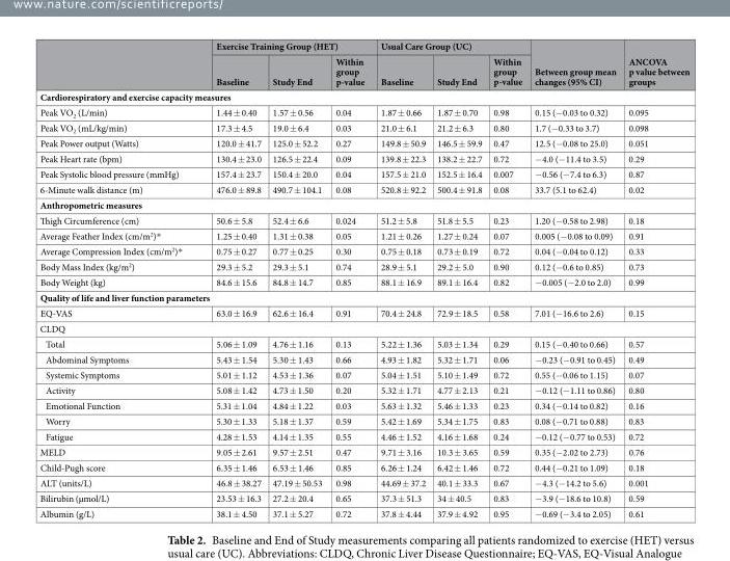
<table><thead><tr><td rowspan="2"></td><td colspan="3">Exercise Training Group (HET)</td><td colspan="3">Usual Care Group (UC)</td><td rowspan="2">Between group mean changes (95% CI)</td><td rowspan="2">ANCOVA p value between groups</td></tr><tr><td>Baseline</td><td>Study End</td><td>Within group p-value</td><td>Baseline</td><td>Study End</td><td>Within group p-value</td></tr></thead><tbody><tr><td colspan="9">Cardiorespiratory and exercise capacity measures</td></tr><tr><td>Peak VO<sub>2</sub> (L/min)</td><td>1.44 ± 0.40</td><td>1.57 ± 0.56</td><td>0.04</td><td>1.87 ± 0.66</td><td>1.87 ± 0.70</td><td>0.98</td><td>0.15 (−0.03 to 0.32)</td><td>0.095</td></tr><tr><td>Peak VO<sub>2</sub> (mL/kg/min)</td><td>17.3 ± 4.5</td><td>19.0 ± 6.4</td><td>0.03</td><td>21.0 ± 6.1</td><td>21.2 ± 6.3</td><td>0.80</td><td>1.7 (−0.33 to 3.7)</td><td>0.098</td></tr><tr><td>Peak Power output (Watts)</td><td>120.0 ± 41.7</td><td>125.0 ± 52.2</td><td>0.27</td><td>149.8 ± 50.9</td><td>146.5 ± 59.9</td><td>0.47</td><td>12.5 (−0.08 to 25.0)</td><td>0.051</td></tr><tr><td>Peak Heart rate (bpm)</td><td>130.4 ± 23.0</td><td>126.5 ± 22.4</td><td>0.09</td><td>139.8 ± 22.3</td><td>138.2 ± 22.7</td><td>0.72</td><td>−4.0 (−11.4 to 3.5)</td><td>0.29</td></tr><tr><td>Peak Systolic blood pressure (mmHg)</td><td>157.4 ± 23.7</td><td>150.4 ± 20.0</td><td>0.04</td><td>157.5 ± 21.0</td><td>152.5 ± 16.4</td><td>0.007</td><td>−0.56 (−7.4 to 6.3)</td><td>0.87</td></tr><tr><td>6-Minute walk distance (m)</td><td>476.0 ± 89.8</td><td>490.7 ± 104.1</td><td>0.08</td><td>520.8 ± 92.2</td><td>500.4 ± 91.8</td><td>0.08</td><td>33.7 (5.1 to 62.4)</td><td>0.02</td></tr><tr><td colspan="9">Anthropometric measures</td></tr><tr><td>Thigh Circumference (cm)</td><td>50.6 ± 5.8</td><td>52.4 ± 6.6</td><td>0.024</td><td>51.2 ± 5.8</td><td>51.8 ± 5.5</td><td>0.23</td><td>1.20 (−0.58 to 2.98)</td><td>0.18</td></tr><tr><td>Average Feather Index (cm/m<sup>2</sup>)*</td><td>1.25 ± 0.40</td><td>1.31 ± 0.38</td><td>0.05</td><td>1.21 ± 0.26</td><td>1.27 ± 0.24</td><td>0.07</td><td>0.005 (−0.08 to 0.09)</td><td>0.91</td></tr><tr><td>Average Compression Index (cm/m<sup>2</sup>)*</td><td>0.75 ± 0.27</td><td>0.77 ± 0.25</td><td>0.30</td><td>0.75 ± 0.18</td><td>0.73 ± 0.19</td><td>0.72</td><td>0.04 (−0.04 to 0.12)</td><td>0.33</td></tr><tr><td>Body Mass Index (kg/m<sup>2</sup>)</td><td>29.3 ± 5.2</td><td>29.3 ± 5.1</td><td>0.74</td><td>28.9 ± 5.1</td><td>29.2 ± 5.0</td><td>0.90</td><td>0.12 (−0.6 to 0.85)</td><td>0.73</td></tr><tr><td>Body Weight (kg)</td><td>84.6 ± 15.6</td><td>84.8 ± 14.7</td><td>0.85</td><td>88.1 ± 16.9</td><td>89.1 ± 16.4</td><td>0.82</td><td>−0.005 (−2.0 to 2.0)</td><td>0.99</td></tr><tr><td colspan="9">Quality of life and liver function parameters</td></tr><tr><td>EQ-VAS</td><td>63.0 ± 16.9</td><td>62.6 ± 16.4</td><td>0.91</td><td>70.4 ± 24.8</td><td>72.9 ± 18.5</td><td>0.58</td><td>7.01 (−16.6 to 2.6)</td><td>0.15</td></tr><tr><td colspan="9">CLDQ</td></tr><tr><td>Total</td><td>5.06 ± 1.09</td><td>4.76 ± 1.16</td><td>0.13</td><td>5.22 ± 1.36</td><td>5.03 ± 1.34</td><td>0.29</td><td>0.15 (−0.40 to 0.66)</td><td>0.57</td></tr><tr><td>Abdominal Symptoms</td><td>5.43 ± 1.54</td><td>5.30 ± 1.43</td><td>0.66</td><td>4.93 ± 1.82</td><td>5.32 ± 1.71</td><td>0.06</td><td>−0.23 (−0.91 to 0.45)</td><td>0.49</td></tr><tr><td>Systemic Symptoms</td><td>5.01 ± 1.12</td><td>4.53 ± 1.36</td><td>0.07</td><td>5.04 ± 1.51</td><td>5.10 ± 1.49</td><td>0.72</td><td>0.55 (−0.06 to 1.15)</td><td>0.07</td></tr><tr><td>Activity</td><td>5.08 ± 1.42</td><td>4.73 ± 1.50</td><td>0.20</td><td>5.32 ± 1.71</td><td>4.77 ± 2.13</td><td>0.21</td><td>−0.12 (−1.11 to 0.86)</td><td>0.80</td></tr><tr><td>Emotional Function</td><td>5.31 ± 1.04</td><td>4.84 ± 1.22</td><td>0.03</td><td>5.63 ± 1.32</td><td>5.46 ± 1.33</td><td>0.23</td><td>0.34 (−0.14 to 0.82)</td><td>0.16</td></tr><tr><td>Worry</td><td>5.30 ± 1.33</td><td>5.18 ± 1.37</td><td>0.59</td><td>5.42 ± 1.69</td><td>5.34 ± 1.75</td><td>0.83</td><td>0.08 (−0.71 to 0.88)</td><td>0.83</td></tr><tr><td>Fatigue</td><td>4.28 ± 1.53</td><td>4.14 ± 1.35</td><td>0.55</td><td>4.46 ± 1.52</td><td>4.16 ± 1.68</td><td>0.24</td><td>−0.12 (−0.77 to 0.53)</td><td>0.72</td></tr><tr><td>MELD</td><td>9.05 ± 2.61</td><td>9.57 ± 2.51</td><td>0.47</td><td>9.71 ± 3.16</td><td>10.3 ± 3.65</td><td>0.59</td><td>0.35 (−2.02 to 2.73)</td><td>0.76</td></tr><tr><td>Child-Pugh score</td><td>6.35 ± 1.46</td><td>6.53 ± 1.46</td><td>0.85</td><td>6.26 ± 1.24</td><td>6.42 ± 1.46</td><td>0.72</td><td>0.44 (−0.21 to 1.09)</td><td>0.18</td></tr><tr><td>ALT (units/L)</td><td>46.8 ± 38.27</td><td>47.19 ± 50.53</td><td>0.98</td><td>44.69 ± 37.2</td><td>40.1 ± 33.3</td><td>0.67</td><td>−4.3 (−14.2 to 5.6)</td><td>0.001</td></tr><tr><td>Bilirubin (µmol/L)</td><td>23.53 ± 16.3</td><td>27.2 ± 20.4</td><td>0.65</td><td>37.3 ± 51.3</td><td>34 ± 40.5</td><td>0.83</td><td>−3.9 (−18.6 to 10.8)</td><td>0.59</td></tr><tr><td>Albumin (g/L)</td><td>38.1 ± 4.50</td><td>37.1 ± 5.27</td><td>0.72</td><td>37.8 ± 4.44</td><td>37.9 ± 4.92</td><td>0.95</td><td>−0.69 (−3.4 to 2.05)</td><td>0.61</td></tr></tbody></table>